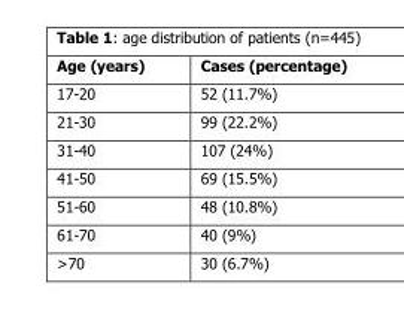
<table><thead><tr><td>Age (years)</td><td>Cases (percentage)</td></tr></thead><tbody><tr><td>17-20</td><td>52 (11.7%)</td></tr><tr><td>21-30</td><td>99 (22.2%)</td></tr><tr><td>31-40</td><td>107 (24%)</td></tr><tr><td>41-50</td><td>69 (15.5%)</td></tr><tr><td>51-60</td><td>48 (10.8%)</td></tr><tr><td>61-70</td><td>40 (9%)</td></tr><tr><td>&gt;70</td><td>30 (6.7%)</td></tr></tbody></table>